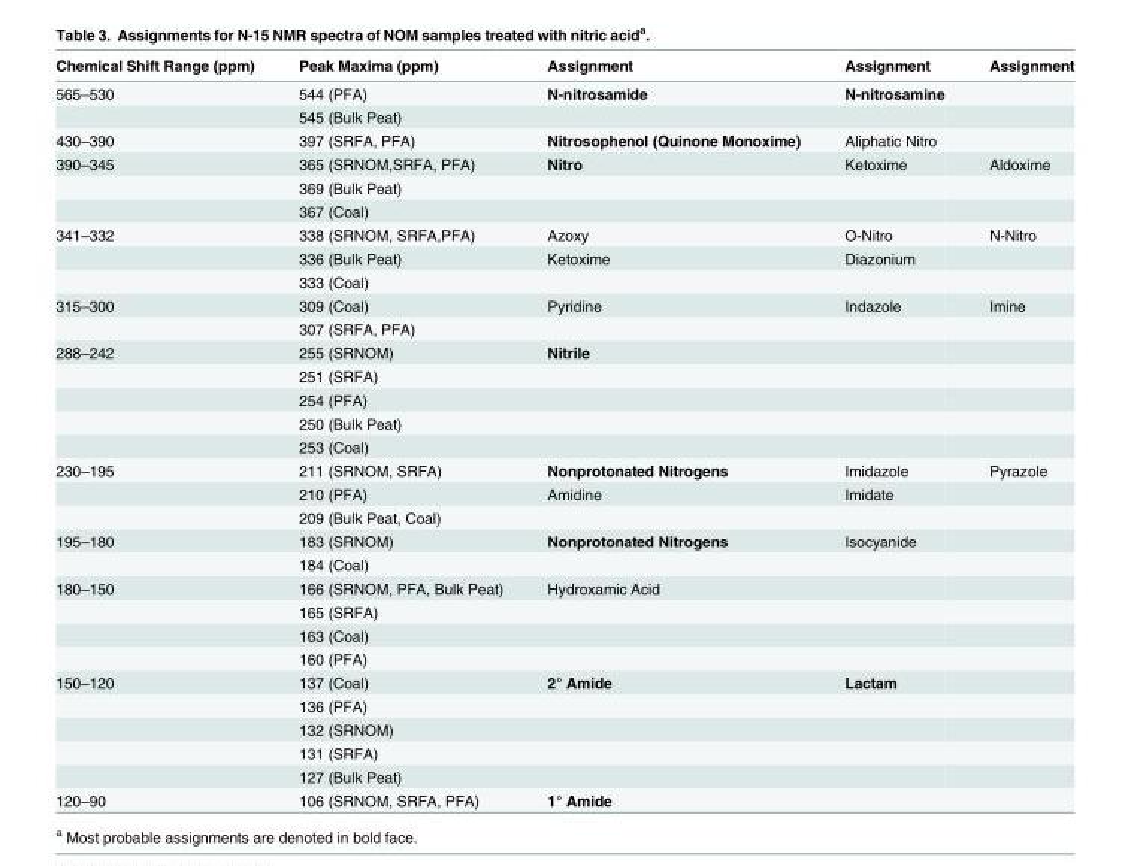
<table><thead><tr><td>Chemical Shift Range (ppm)</td><td>Peak Maxima (ppm)</td><td>Assignment</td><td>Assignment</td><td>Assignment</td></tr></thead><tbody><tr><td rowspan="2">565–530</td><td>544 (PFA)</td><td>N-nitrosamide</td><td>N-nitrosamine</td><td></td></tr><tr><td>545 (Bulk Peat)</td><td></td><td></td><td></td></tr><tr><td>430–390</td><td>397 (SRFA, PFA)</td><td>Nitrosophenol (Quinone Monoxime)</td><td>Aliphatic Nitro</td><td></td></tr><tr><td rowspan="3">390–345</td><td>365 (SRNOM,SRFA, PFA)</td><td>Nitro</td><td>Ketoxime</td><td>Aldoxime</td></tr><tr><td>369 (Bulk Peat)</td><td></td><td></td><td></td></tr><tr><td>367 (Coal)</td><td></td><td></td><td></td></tr><tr><td rowspan="3">341–332</td><td>338 (SRNOM, SRFA,PFA)</td><td>Azoxy</td><td>O-Nitro</td><td>N-Nitro</td></tr><tr><td>336 (Bulk Peat)</td><td>Ketoxime</td><td>Diazonium</td><td></td></tr><tr><td>333 (Coal)</td><td></td><td></td><td></td></tr><tr><td rowspan="2">315–300</td><td>309 (Coal)</td><td>Pyridine</td><td>Indazole</td><td>Imine</td></tr><tr><td>307 (SRFA, PFA)</td><td></td><td></td><td></td></tr><tr><td rowspan="5">288–242</td><td>255 (SRNOM)</td><td>Nitrile</td><td></td><td></td></tr><tr><td>251 (SRFA)</td><td></td><td></td><td></td></tr><tr><td>254 (PFA)</td><td></td><td></td><td></td></tr><tr><td>250 (Bulk Peat)</td><td></td><td></td><td></td></tr><tr><td>253 (Coal)</td><td></td><td></td><td></td></tr><tr><td rowspan="3">230–195</td><td>211 (SRNOM, SRFA)</td><td>Nonprotonated Nitrogens</td><td>Imidazole</td><td>Pyrazole</td></tr><tr><td>210 (PFA)</td><td>Amidine</td><td>Imidate</td><td></td></tr><tr><td>209 (Bulk Peat, Coal)</td><td></td><td></td><td></td></tr><tr><td rowspan="2">195–180</td><td>183 (SRNOM)</td><td>Nonprotonated Nitrogens</td><td>Isocyanide</td><td></td></tr><tr><td>184 (Coal)</td><td></td><td></td><td></td></tr><tr><td rowspan="4">180–150</td><td>166 (SRNOM, PFA, Bulk Peat)</td><td>Hydroxamic Acid</td><td></td><td></td></tr><tr><td>165 (SRFA)</td><td></td><td></td><td></td></tr><tr><td>163 (Coal)</td><td></td><td></td><td></td></tr><tr><td>160 (PFA)</td><td></td><td></td><td></td></tr><tr><td rowspan="5">150–120</td><td>137 (Coal)</td><td>2° Amide</td><td>Lactam</td><td></td></tr><tr><td>136 (PFA)</td><td></td><td></td><td></td></tr><tr><td>132 (SRNOM)</td><td></td><td></td><td></td></tr><tr><td>131 (SRFA)</td><td></td><td></td><td></td></tr><tr><td>127 (Bulk Peat)</td><td></td><td></td><td></td></tr><tr><td>120–90</td><td>106 (SRNOM, SRFA, PFA)</td><td>1° Amide</td><td></td><td></td></tr></tbody></table>